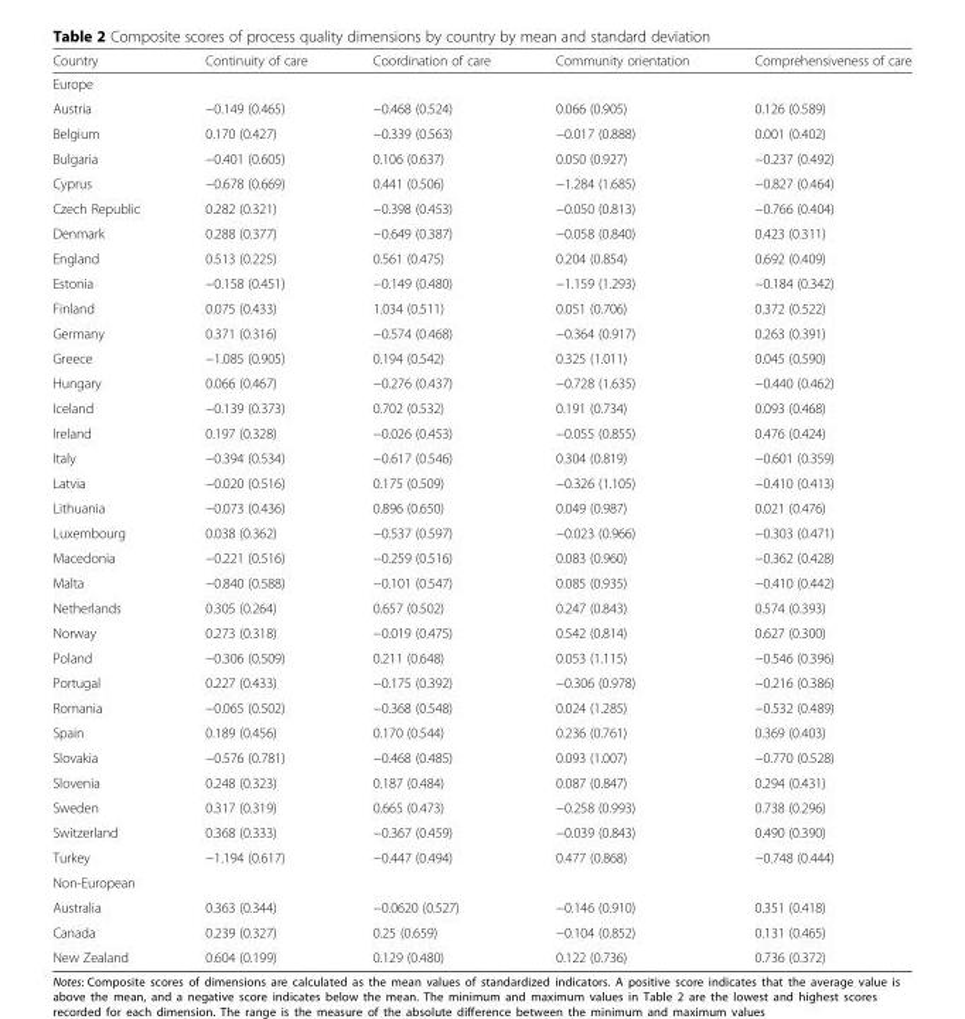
<table><thead><tr><td>Country</td><td>Continuity of care</td><td>Coordination of care</td><td>Community orientation</td><td>Comprehensiveness of care</td></tr></thead><tbody><tr><td colspan="5">Europe</td></tr><tr><td>Austria</td><td>−0.149 (0.465)</td><td>−0.468 (0.524)</td><td>0.066 (0.905)</td><td>0.126 (0.589)</td></tr><tr><td>Belgium</td><td>0.170 (0.427)</td><td>−0.339 (0.563)</td><td>−0.017 (0.888)</td><td>0.001 (0.402)</td></tr><tr><td>Bulgaria</td><td>−0.401 (0.605)</td><td>0.106 (0.637)</td><td>0.050 (0.927)</td><td>−0.237 (0.492)</td></tr><tr><td>Cyprus</td><td>−0.678 (0.669)</td><td>0.441 (0.506)</td><td>−1.284 (1.685)</td><td>−0.827 (0.464)</td></tr><tr><td>Czech Republic</td><td>0.282 (0.321)</td><td>−0.398 (0.453)</td><td>−0.050 (0.813)</td><td>−0.766 (0.404)</td></tr><tr><td>Denmark</td><td>0.288 (0.377)</td><td>−0.649 (0.387)</td><td>−0.058 (0.840)</td><td>0.423 (0.311)</td></tr><tr><td>England</td><td>0.513 (0.225)</td><td>0.561 (0.475)</td><td>0.204 (0.854)</td><td>0.692 (0.409)</td></tr><tr><td>Estonia</td><td>−0.158 (0.451)</td><td>−0.149 (0.480)</td><td>−1.159 (1.293)</td><td>−0.184 (0.342)</td></tr><tr><td>Finland</td><td>0.075 (0.433)</td><td>1.034 (0.511)</td><td>0.051 (0.706)</td><td>0.372 (0.522)</td></tr><tr><td>Germany</td><td>0.371 (0.316)</td><td>−0.574 (0.468)</td><td>−0.364 (0.917)</td><td>0.263 (0.391)</td></tr><tr><td>Greece</td><td>−1.085 (0.905)</td><td>0.194 (0.542)</td><td>0.325 (1.011)</td><td>0.045 (0.590)</td></tr><tr><td>Hungary</td><td>0.066 (0.467)</td><td>−0.276 (0.437)</td><td>−0.728 (1.635)</td><td>−0.440 (0.462)</td></tr><tr><td>Iceland</td><td>−0.139 (0.373)</td><td>0.702 (0.532)</td><td>0.191 (0.734)</td><td>0.093 (0.468)</td></tr><tr><td>Ireland</td><td>0.197 (0.328)</td><td>−0.026 (0.453)</td><td>−0.055 (0.855)</td><td>0.476 (0.424)</td></tr><tr><td>Italy</td><td>−0.394 (0.534)</td><td>−0.617 (0.546)</td><td>0.304 (0.819)</td><td>−0.601 (0.359)</td></tr><tr><td>Latvia</td><td>−0.020 (0.516)</td><td>0.175 (0.509)</td><td>−0.326 (1.105)</td><td>−0.410 (0.413)</td></tr><tr><td>Lithuania</td><td>−0.073 (0.436)</td><td>0.896 (0.650)</td><td>0.049 (0.987)</td><td>0.021 (0.476)</td></tr><tr><td>Luxembourg</td><td>0.038 (0.362)</td><td>−0.537 (0.597)</td><td>−0.023 (0.966)</td><td>−0.303 (0.471)</td></tr><tr><td>Macedonia</td><td>−0.221 (0.516)</td><td>−0.259 (0.516)</td><td>0.083 (0.960)</td><td>−0.362 (0.428)</td></tr><tr><td>Malta</td><td>−0.840 (0.588)</td><td>−0.101 (0.547)</td><td>0.085 (0.935)</td><td>−0.410 (0.442)</td></tr><tr><td>Netherlands</td><td>0.305 (0.264)</td><td>0.657 (0.502)</td><td>0.247 (0.843)</td><td>0.574 (0.393)</td></tr><tr><td>Norway</td><td>0.273 (0.318)</td><td>−0.019 (0.475)</td><td>0.542 (0.814)</td><td>0.627 (0.300)</td></tr><tr><td>Poland</td><td>−0.306 (0.509)</td><td>0.211 (0.648)</td><td>0.053 (1.115)</td><td>−0.546 (0.396)</td></tr><tr><td>Portugal</td><td>0.227 (0.433)</td><td>−0.175 (0.392)</td><td>−0.306 (0.978)</td><td>−0.216 (0.386)</td></tr><tr><td>Romania</td><td>−0.065 (0.502)</td><td>−0.368 (0.548)</td><td>0.024 (1.285)</td><td>−0.532 (0.489)</td></tr><tr><td>Spain</td><td>0.189 (0.456)</td><td>0.170 (0.544)</td><td>0.236 (0.761)</td><td>0.369 (0.403)</td></tr><tr><td>Slovakia</td><td>−0.576 (0.781)</td><td>−0.468 (0.485)</td><td>0.093 (1.007)</td><td>−0.770 (0.528)</td></tr><tr><td>Slovenia</td><td>0.248 (0.323)</td><td>0.187 (0.484)</td><td>0.087 (0.847)</td><td>0.294 (0.431)</td></tr><tr><td>Sweden</td><td>0.317 (0.319)</td><td>0.665 (0.473)</td><td>−0.258 (0.993)</td><td>0.738 (0.296)</td></tr><tr><td>Switzerland</td><td>0.368 (0.333)</td><td>−0.367 (0.459)</td><td>−0.039 (0.843)</td><td>0.490 (0.390)</td></tr><tr><td>Turkey</td><td>−1.194 (0.617)</td><td>−0.447 (0.494)</td><td>0.477 (0.868)</td><td>−0.748 (0.444)</td></tr><tr><td colspan="5">Non-European</td></tr><tr><td>Australia</td><td>0.363 (0.344)</td><td>−0.0620 (0.527)</td><td>−0.146 (0.910)</td><td>0.351 (0.418)</td></tr><tr><td>Canada</td><td>0.239 (0.327)</td><td>0.25 (0.659)</td><td>−0.104 (0.852)</td><td>0.131 (0.465)</td></tr><tr><td>New Zealand</td><td>0.604 (0.199)</td><td>0.129 (0.480)</td><td>0.122 (0.736)</td><td>0.736 (0.372)</td></tr></tbody></table>